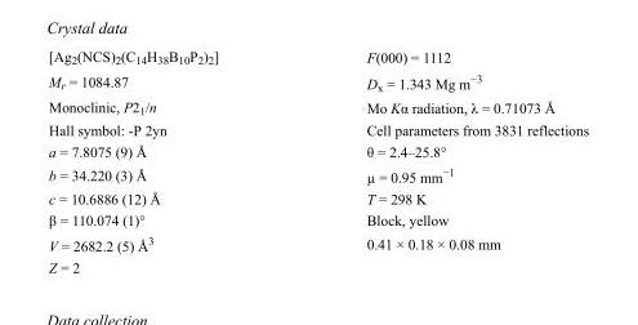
<table><tbody><tr><td>[Ag<sub>2</sub>(NCS)<sub>2</sub>(C<sub>14</sub>H<sub>38</sub>B<sub>10</sub>P<sub>2</sub>)<sub>2</sub>]</td><td>F(000) = 1112</td></tr><tr><td>M<sub>r</sub> = 1084.87</td><td>D<sub>x</sub> = 1.343 Mg m<sup>−3</sup></td></tr><tr><td>Monoclinic, P2<sub>1</sub>/n</td><td>Mo Kα radiation, λ = 0.71073 Å</td></tr><tr><td>Hall symbol: -P 2yn</td><td>Cell parameters from 3831 reflections</td></tr><tr><td>a = 7.8075 (9) Å</td><td>θ = 2.4–25.8°</td></tr><tr><td>b = 34.220 (3) Å</td><td>µ = 0.95 mm<sup>−1</sup></td></tr><tr><td>c = 10.6886 (12) Å</td><td>T = 298 K</td></tr><tr><td>β = 110.074 (1)°</td><td>Block, yellow</td></tr><tr><td>V = 2682.2 (5) Å<sup>3</sup></td><td>0.41 × 0.18 × 0.08 mm</td></tr><tr><td>Z = 2</td><td></td></tr></tbody></table>